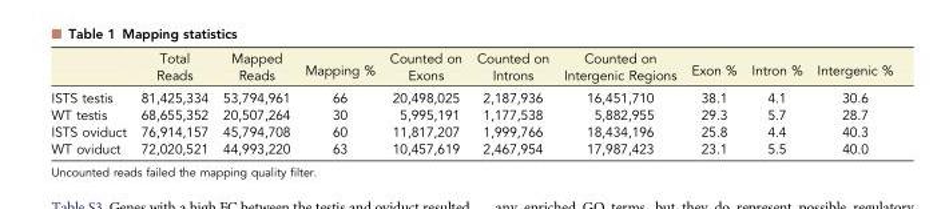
<table><thead><tr><td></td><td>Total Reads</td><td>Mapped Reads</td><td>Mapping %</td><td>Counted on Exons</td><td>Counted on Introns</td><td>Counted on Intergenic Regions</td><td>Exon %</td><td>Intron %</td><td>Intergenic %</td></tr></thead><tbody><tr><td>ISTS testis</td><td>81,425,334</td><td>53,794,961</td><td>66</td><td>20,498,025</td><td>2,187,936</td><td>16,451,710</td><td>38.1</td><td>4.1</td><td>30.6</td></tr><tr><td>WT testis</td><td>68,655,352</td><td>20,507,264</td><td>30</td><td>5,995,191</td><td>1,177,538</td><td>5,882,955</td><td>29.3</td><td>5.7</td><td>28.7</td></tr><tr><td>ISTS oviduct</td><td>76,914,157</td><td>45,794,708</td><td>60</td><td>11,817,207</td><td>1,999,766</td><td>18,434,196</td><td>25.8</td><td>4.4</td><td>40.3</td></tr><tr><td>WT oviduct</td><td>72,020,521</td><td>44,993,220</td><td>63</td><td>10,457,619</td><td>2,467,954</td><td>17,987,423</td><td>23.1</td><td>5.5</td><td>40.0</td></tr></tbody></table>